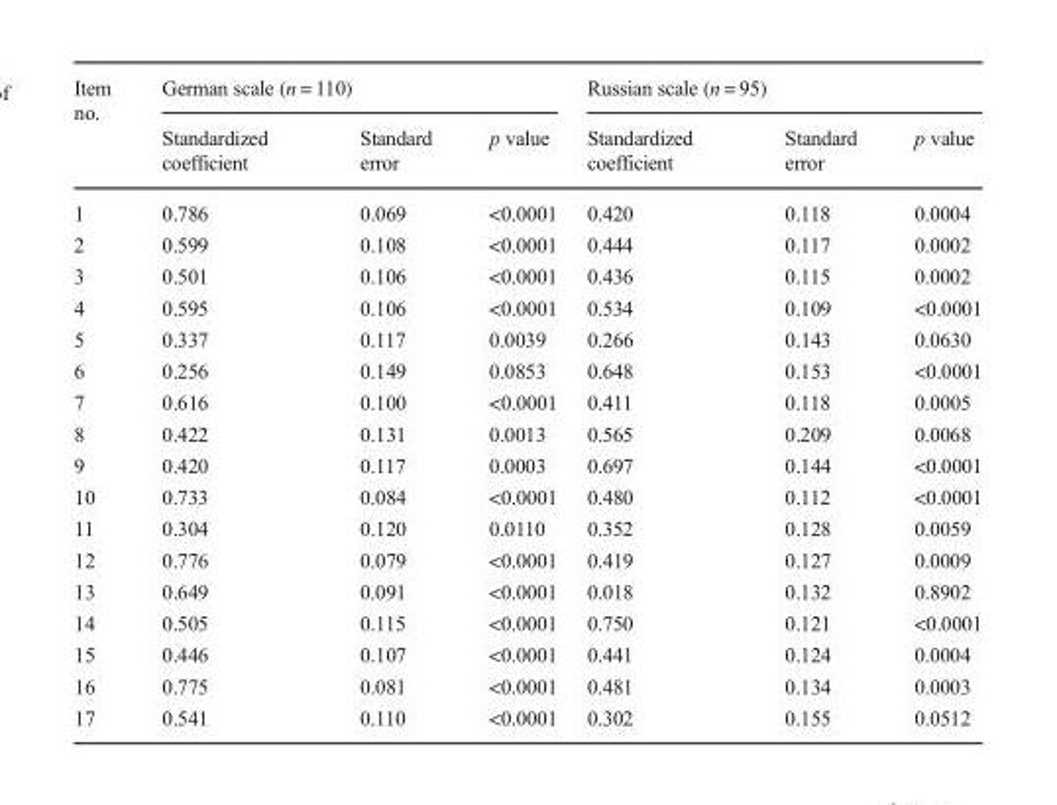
<table><thead><tr><td rowspan="2">Item no.</td><td colspan="3">German scale (n = 110)</td><td colspan="3">Russian scale (n = 95)</td></tr><tr><td>Standardized coefficient</td><td>Standard error</td><td>p value</td><td>Standardized coefficient</td><td>Standard error</td><td>p value</td></tr></thead><tbody><tr><td>1</td><td>0.786</td><td>0.069</td><td>&lt;0.0001</td><td>0.420</td><td>0.118</td><td>0.0004</td></tr><tr><td>2</td><td>0.599</td><td>0.108</td><td>&lt;0.0001</td><td>0.444</td><td>0.117</td><td>0.0002</td></tr><tr><td>3</td><td>0.501</td><td>0.106</td><td>&lt;0.0001</td><td>0.436</td><td>0.115</td><td>0.0002</td></tr><tr><td>4</td><td>0.595</td><td>0.106</td><td>&lt;0.0001</td><td>0.534</td><td>0.109</td><td>&lt;0.0001</td></tr><tr><td>5</td><td>0.337</td><td>0.117</td><td>0.0039</td><td>0.266</td><td>0.143</td><td>0.0630</td></tr><tr><td>6</td><td>0.256</td><td>0.149</td><td>0.0853</td><td>0.648</td><td>0.153</td><td>&lt;0.0001</td></tr><tr><td>7</td><td>0.616</td><td>0.100</td><td>&lt;0.0001</td><td>0.411</td><td>0.118</td><td>0.0005</td></tr><tr><td>8</td><td>0.422</td><td>0.131</td><td>0.0013</td><td>0.565</td><td>0.209</td><td>0.0068</td></tr><tr><td>9</td><td>0.420</td><td>0.117</td><td>0.0003</td><td>0.697</td><td>0.144</td><td>&lt;0.0001</td></tr><tr><td>10</td><td>0.733</td><td>0.084</td><td>&lt;0.0001</td><td>0.480</td><td>0.112</td><td>&lt;0.0001</td></tr><tr><td>11</td><td>0.304</td><td>0.120</td><td>0.0110</td><td>0.352</td><td>0.128</td><td>0.0059</td></tr><tr><td>12</td><td>0.776</td><td>0.079</td><td>&lt;0.0001</td><td>0.419</td><td>0.127</td><td>0.0009</td></tr><tr><td>13</td><td>0.649</td><td>0.091</td><td>&lt;0.0001</td><td>0.018</td><td>0.132</td><td>0.8902</td></tr><tr><td>14</td><td>0.505</td><td>0.115</td><td>&lt;0.0001</td><td>0.750</td><td>0.121</td><td>&lt;0.0001</td></tr><tr><td>15</td><td>0.446</td><td>0.107</td><td>&lt;0.0001</td><td>0.441</td><td>0.124</td><td>0.0004</td></tr><tr><td>16</td><td>0.775</td><td>0.081</td><td>&lt;0.0001</td><td>0.481</td><td>0.134</td><td>0.0003</td></tr><tr><td>17</td><td>0.541</td><td>0.110</td><td>&lt;0.0001</td><td>0.302</td><td>0.155</td><td>0.0512</td></tr></tbody></table>